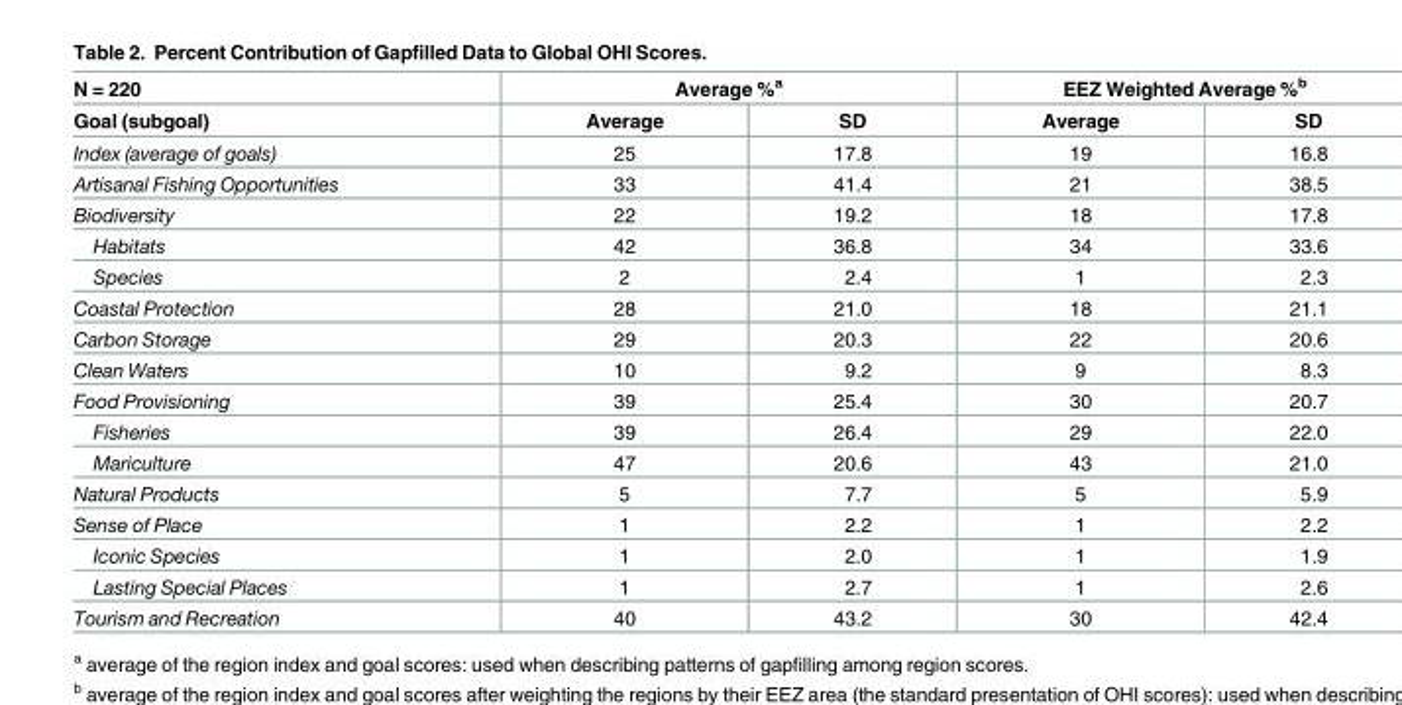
<table><thead><tr><td rowspan="2">N = 220 Goal (subgoal)</td><td colspan="2">Average %<sup>a</sup></td><td colspan="2">EEZ Weighted Average %<sup>b</sup></td></tr><tr><td>Average</td><td>SD</td><td>Average</td><td>SD</td></tr></thead><tbody><tr><td>Index (average of goals)</td><td>25</td><td>17.8</td><td>19</td><td>16.8</td></tr><tr><td>Artisanal Fishing Opportunities</td><td>33</td><td>41.4</td><td>21</td><td>38.5</td></tr><tr><td>Biodiversity</td><td>22</td><td>19.2</td><td>18</td><td>17.8</td></tr><tr><td>Habitats</td><td>42</td><td>36.8</td><td>34</td><td>33.6</td></tr><tr><td>Species</td><td>2</td><td>2.4</td><td>1</td><td>2.3</td></tr><tr><td>Coastal Protection</td><td>28</td><td>21.0</td><td>18</td><td>21.1</td></tr><tr><td>Carbon Storage</td><td>29</td><td>20.3</td><td>22</td><td>20.6</td></tr><tr><td>Clean Waters</td><td>10</td><td>9.2</td><td>9</td><td>8.3</td></tr><tr><td>Food Provisioning</td><td>39</td><td>25.4</td><td>30</td><td>20.7</td></tr><tr><td>Fisheries</td><td>39</td><td>26.4</td><td>29</td><td>22.0</td></tr><tr><td>Mariculture</td><td>47</td><td>20.6</td><td>43</td><td>21.0</td></tr><tr><td>Natural Products</td><td>5</td><td>7.7</td><td>5</td><td>5.9</td></tr><tr><td>Sense of Place</td><td>1</td><td>2.2</td><td>1</td><td>2.2</td></tr><tr><td>Iconic Species</td><td>1</td><td>2.0</td><td>1</td><td>1.9</td></tr><tr><td>Lasting Special Places</td><td>1</td><td>2.7</td><td>1</td><td>2.6</td></tr><tr><td>Tourism and Recreation</td><td>40</td><td>43.2</td><td>30</td><td>42.4</td></tr></tbody></table>